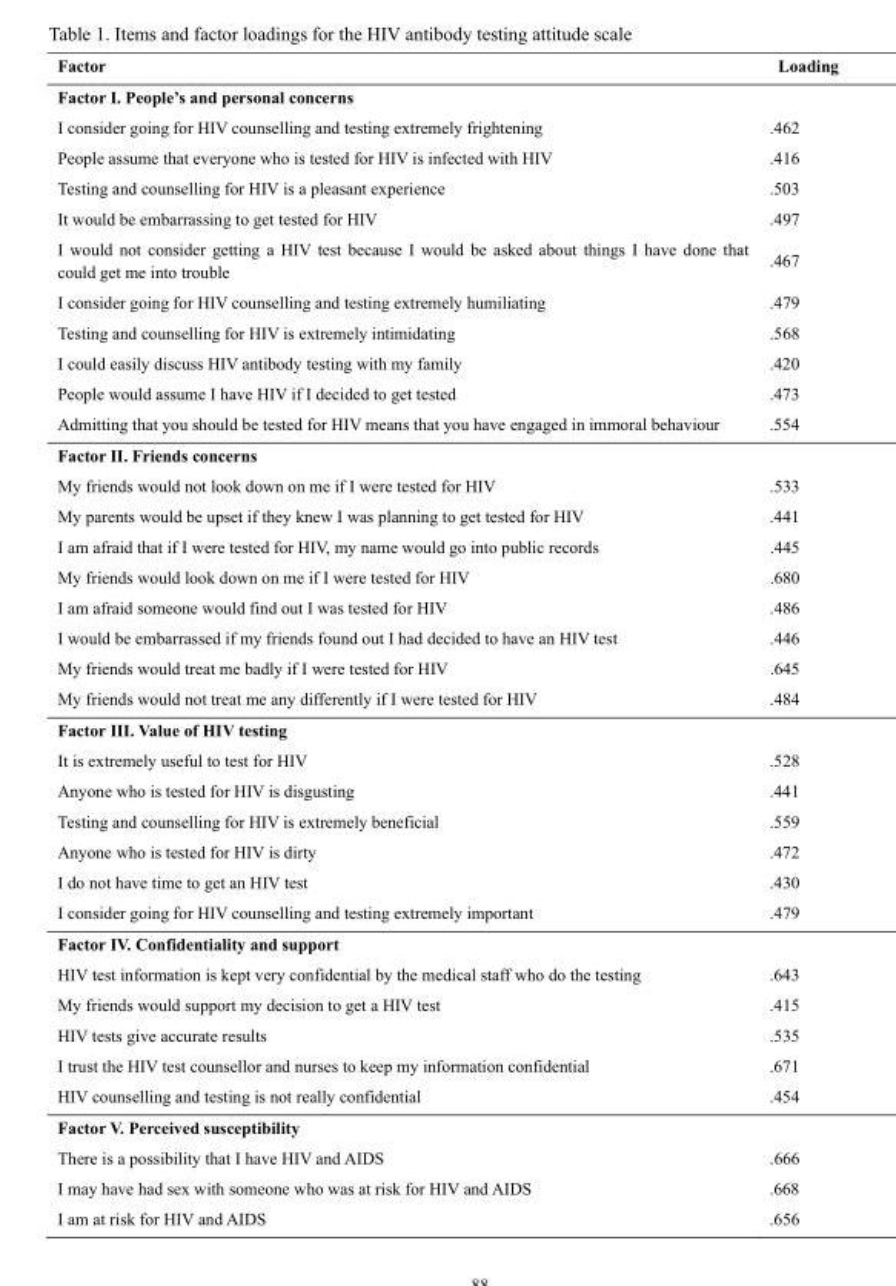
<table><thead><tr><td>Factor</td><td>Loading</td></tr></thead><tbody><tr><td colspan="2">Factor I. People’s and personal concerns</td></tr><tr><td>I consider going for HIV counselling and testing extremely frightening</td><td>.462</td></tr><tr><td>People assume that everyone who is tested for HIV is infected with HIV</td><td>.416</td></tr><tr><td>Testing and counselling for HIV is a pleasant experience</td><td>.503</td></tr><tr><td>It would be embarrassing to get tested for HIV</td><td>.497</td></tr><tr><td>I would not consider getting a HIV test because I would be asked about things I have done that could get me into trouble</td><td>.467</td></tr><tr><td>I consider going for HIV counselling and testing extremely humiliating</td><td>.479</td></tr><tr><td>Testing and counselling for HIV is extremely intimidating</td><td>.568</td></tr><tr><td>I could easily discuss HIV antibody testing with my family</td><td>.420</td></tr><tr><td>People would assume I have HIV if I decided to get tested</td><td>.473</td></tr><tr><td>Admitting that you should be tested for HIV means that you have engaged in immoral behaviour</td><td>.554</td></tr><tr><td colspan="2">Factor II. Friends concerns</td></tr><tr><td>My friends would not look down on me if I were tested for HIV</td><td>.533</td></tr><tr><td>My parents would be upset if they knew I was planning to get tested for HIV</td><td>.441</td></tr><tr><td>I am afraid that if I were tested for HIV, my name would go into public records</td><td>.445</td></tr><tr><td>My friends would look down on me if I were tested for HIV</td><td>.680</td></tr><tr><td>I am afraid someone would find out I was tested for HIV</td><td>.486</td></tr><tr><td>I would be embarrassed if my friends found out I had decided to have an HIV test</td><td>.446</td></tr><tr><td>My friends would treat me badly if I were tested for HIV</td><td>.645</td></tr><tr><td>My friends would not treat me any differently if I were tested for HIV</td><td>.484</td></tr><tr><td colspan="2">Factor III. Value of HIV testing</td></tr><tr><td>It is extremely useful to test for HIV</td><td>.528</td></tr><tr><td>Anyone who is tested for HIV is disgusting</td><td>.441</td></tr><tr><td>Testing and counselling for HIV is extremely beneficial</td><td>.559</td></tr><tr><td>Anyone who is tested for HIV is dirty</td><td>.472</td></tr><tr><td>I do not have time to get an HIV test</td><td>.430</td></tr><tr><td>I consider going for HIV counselling and testing extremely important</td><td>.479</td></tr><tr><td colspan="2">Factor IV. Confidentiality and support</td></tr><tr><td>HIV test information is kept very confidential by the medical staff who do the testing</td><td>.643</td></tr><tr><td>My friends would support my decision to get a HIV test</td><td>.415</td></tr><tr><td>HIV tests give accurate results</td><td>.535</td></tr><tr><td>I trust the HIV test counsellor and nurses to keep my information confidential</td><td>.671</td></tr><tr><td>HIV counselling and testing is not really confidential</td><td>.454</td></tr><tr><td colspan="2">Factor V. Perceived susceptibility</td></tr><tr><td>There is a possibility that I have HIV and AIDS</td><td>.666</td></tr><tr><td>I may have had sex with someone who was at risk for HIV and AIDS</td><td>.668</td></tr><tr><td>I am at risk for HIV and AIDS</td><td>.656</td></tr></tbody></table>